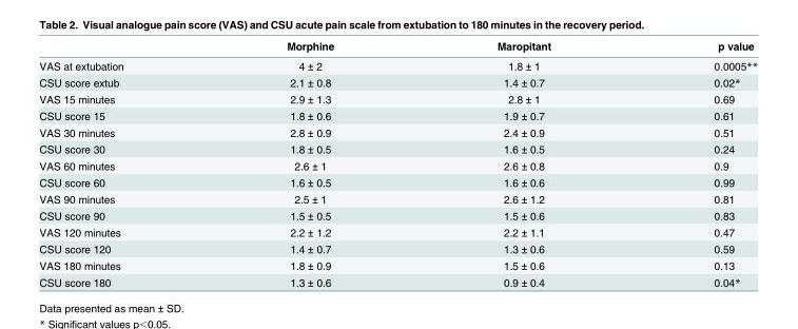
<table><thead><tr><td></td><td>Morphine</td><td>Maropitant</td><td>p value</td></tr></thead><tbody><tr><td>VAS at extubation</td><td>4 ± 2</td><td>1.8 ± 1</td><td>0.0005**</td></tr><tr><td>CSU score extub</td><td>2.1 ± 0.8</td><td>1.4 ± 0.7</td><td>0.02*</td></tr><tr><td>VAS 15 minutes</td><td>2.9 ± 1.3</td><td>2.8 ± 1</td><td>0.69</td></tr><tr><td>CSU score 15</td><td>1.8 ± 0.6</td><td>1.9 ± 0.7</td><td>0.61</td></tr><tr><td>VAS 30 minutes</td><td>2.8 ± 0.9</td><td>2.4 ± 0.9</td><td>0.51</td></tr><tr><td>CSU score 30</td><td>1.8 ± 0.5</td><td>1.6 ± 0.5</td><td>0.24</td></tr><tr><td>VAS 60 minutes</td><td>2.6 ± 1</td><td>2.6 ± 0.8</td><td>0.9</td></tr><tr><td>CSU score 60</td><td>1.6 ± 0.5</td><td>1.6 ± 0.6</td><td>0.99</td></tr><tr><td>VAS 90 minutes</td><td>2.5 ± 1</td><td>2.6 ± 1.2</td><td>0.81</td></tr><tr><td>CSU score 90</td><td>1.5 ± 0.5</td><td>1.5 ± 0.6</td><td>0.83</td></tr><tr><td>VAS 120 minutes</td><td>2.2 ± 1.2</td><td>2.2 ± 1.1</td><td>0.47</td></tr><tr><td>CSU score 120</td><td>1.4 ± 0.7</td><td>1.3 ± 0.6</td><td>0.59</td></tr><tr><td>VAS 180 minutes</td><td>1.8 ± 0.9</td><td>1.5 ± 0.6</td><td>0.13</td></tr><tr><td>CSU score 180</td><td>1.3 ± 0.6</td><td>0.9 ± 0.4</td><td>0.04*</td></tr></tbody></table>